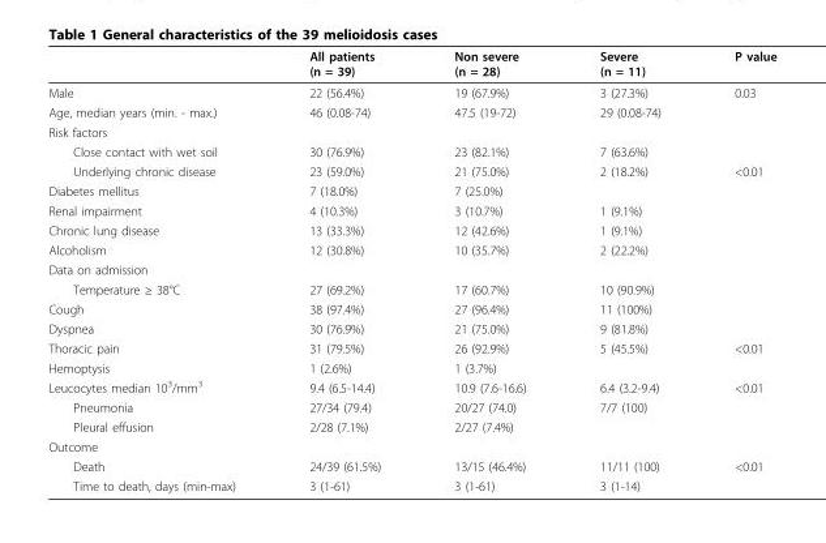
<table><thead><tr><td></td><td>All patients (n = 39)</td><td>Non severe (n = 28)</td><td>Severe (n = 11)</td><td>P value</td></tr></thead><tbody><tr><td>Male</td><td>22 (56.4%)</td><td>19 (67.9%)</td><td>3 (27.3%)</td><td>0.03</td></tr><tr><td>Age, median years (min. - max.)</td><td>46 (0.08-74)</td><td>47.5 (19-72)</td><td>29 (0.08-74)</td><td></td></tr><tr><td colspan="5">Risk factors</td></tr><tr><td>Close contact with wet soil</td><td>30 (76.9%)</td><td>23 (82.1%)</td><td>7 (63.6%)</td><td></td></tr><tr><td>Underlying chronic disease</td><td>23 (59.0%)</td><td>21 (75.0%)</td><td>2 (18.2%)</td><td>&lt;0.01</td></tr><tr><td>Diabetes mellitus</td><td>7 (18.0%)</td><td>7 (25.0%)</td><td></td><td></td></tr><tr><td>Renal impairment</td><td>4 (10.3%)</td><td>3 (10.7%)</td><td>1 (9.1%)</td><td></td></tr><tr><td>Chronic lung disease</td><td>13 (33.3%)</td><td>12 (42.6%)</td><td>1 (9.1%)</td><td></td></tr><tr><td>Alcoholism</td><td>12 (30.8%)</td><td>10 (35.7%)</td><td>2 (22.2%)</td><td></td></tr><tr><td colspan="5">Data on admission</td></tr><tr><td>Temperature ≥ 38°C</td><td>27 (69.2%)</td><td>17 (60.7%)</td><td>10 (90.9%)</td><td></td></tr><tr><td>Cough</td><td>38 (97.4%)</td><td>27 (96.4%)</td><td>11 (100%)</td><td></td></tr><tr><td>Dyspnea</td><td>30 (76.9%)</td><td>21 (75.0%)</td><td>9 (81.8%)</td><td></td></tr><tr><td>Thoracic pain</td><td>31 (79.5%)</td><td>26 (92.9%)</td><td>5 (45.5%)</td><td>&lt;0.01</td></tr><tr><td>Hemoptysis</td><td>1 (2.6%)</td><td>1 (3.7%)</td><td></td><td></td></tr><tr><td>Leucocytes median 10<sup>3</sup>/mm<sup>3</sup></td><td>9.4 (6.5-14.4)</td><td>10.9 (7.6-16.6)</td><td>6.4 (3.2-9.4)</td><td>&lt;0.01</td></tr><tr><td>Pneumonia</td><td>27/34 (79.4)</td><td>20/27 (74.0)</td><td>7/7 (100)</td><td></td></tr><tr><td>Pleural effusion</td><td>2/28 (7.1%)</td><td>2/27 (7.4%)</td><td></td><td></td></tr><tr><td colspan="5">Outcome</td></tr><tr><td>Death</td><td>24/39 (61.5%)</td><td>13/15 (46.4%)</td><td>11/11 (100)</td><td>&lt;0.01</td></tr><tr><td>Time to death, days (min-max)</td><td>3 (1-61)</td><td>3 (1-61)</td><td>3 (1-14)</td><td></td></tr></tbody></table>